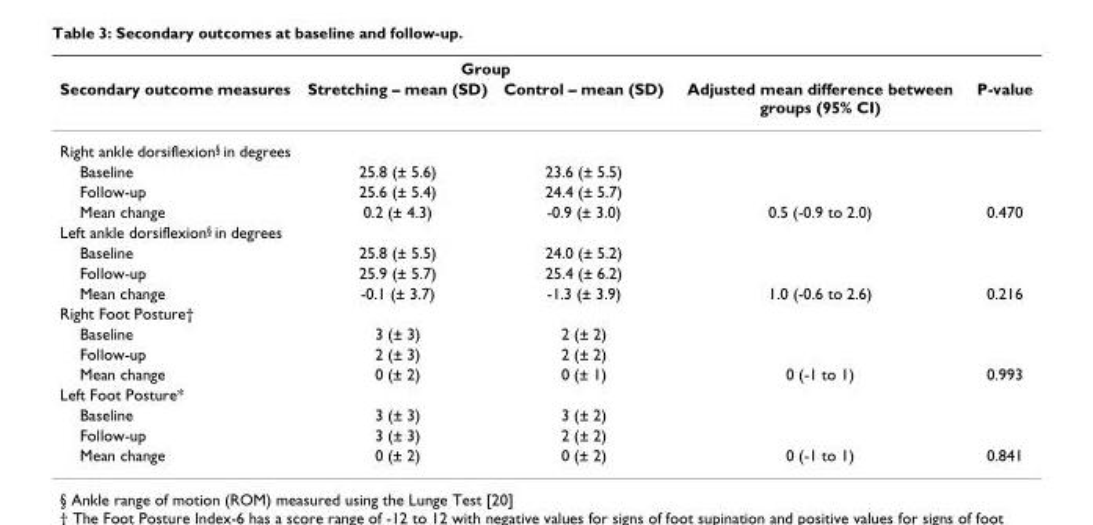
<table><thead><tr><td rowspan="2">Secondary outcome measures</td><td colspan="2">Group</td><td rowspan="2">Adjusted mean difference between groups (95% CI)</td><td rowspan="2">P-value</td></tr><tr><td>Stretching – mean (SD)</td><td>Control – mean (SD)</td></tr></thead><tbody><tr><td colspan="5">Right ankle dorsiflexion§ in degrees</td></tr><tr><td>Baseline</td><td>25.8 (± 5.6)</td><td>23.6 (± 5.5)</td><td></td><td></td></tr><tr><td>Follow-up</td><td>25.6 (± 5.4)</td><td>24.4 (± 5.7)</td><td></td><td></td></tr><tr><td>Mean change</td><td>0.2 (± 4.3)</td><td>-0.9 (± 3.0)</td><td>0.5 (-0.9 to 2.0)</td><td>0.470</td></tr><tr><td colspan="5">Left ankle dorsiflexion§ in degrees</td></tr><tr><td>Baseline</td><td>25.8 (± 5.5)</td><td>24.0 (± 5.2)</td><td></td><td></td></tr><tr><td>Follow-up</td><td>25.9 (± 5.7)</td><td>25.4 (± 6.2)</td><td></td><td></td></tr><tr><td>Mean change</td><td>-0.1 (± 3.7)</td><td>-1.3 (± 3.9)</td><td>1.0 (-0.6 to 2.6)</td><td>0.216</td></tr><tr><td colspan="5">Right Foot Posture†</td></tr><tr><td>Baseline</td><td>3 (± 3)</td><td>2 (± 2)</td><td></td><td></td></tr><tr><td>Follow-up</td><td>2 (± 3)</td><td>2 (± 2)</td><td></td><td></td></tr><tr><td>Mean change</td><td>0 (± 2)</td><td>0 (± 1)</td><td>0 (-1 to 1)</td><td>0.993</td></tr><tr><td colspan="5">Left Foot Posture*</td></tr><tr><td>Baseline</td><td>3 (± 3)</td><td>3 (± 2)</td><td></td><td></td></tr><tr><td>Follow-up</td><td>3 (± 3)</td><td>2 (± 2)</td><td></td><td></td></tr><tr><td>Mean change</td><td>0 (± 2)</td><td>0 (± 2)</td><td>0 (-1 to 1)</td><td>0.841</td></tr></tbody></table>